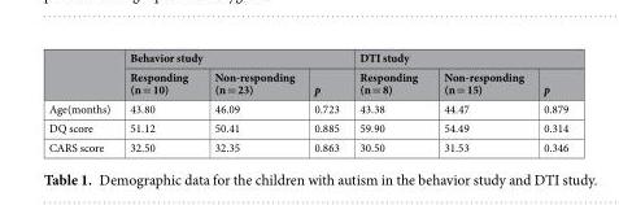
<table><thead><tr><td rowspan="2"></td><td colspan="3">Behavior study</td><td colspan="3">DTI study</td></tr><tr><td>Responding (n = 10)</td><td>Non-responding (n = 23)</td><td>p</td><td>Responding (n = 8)</td><td>Non-responding (n = 15)</td><td>p</td></tr></thead><tbody><tr><td>Age(months)</td><td>43.80</td><td>46.09</td><td>0.723</td><td>43.38</td><td>44.47</td><td>0.879</td></tr><tr><td>DQ score</td><td>51.12</td><td>50.41</td><td>0.885</td><td>59.90</td><td>54.49</td><td>0.314</td></tr><tr><td>CARS score</td><td>32.50</td><td>32.35</td><td>0.863</td><td>30.50</td><td>31.53</td><td>0.346</td></tr></tbody></table>